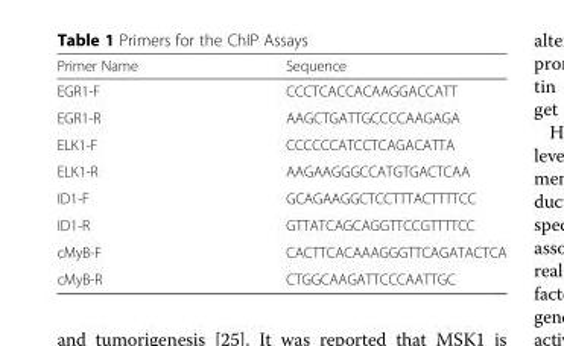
<table><thead><tr><td>Primer Name</td><td>Sequence</td></tr></thead><tbody><tr><td>EGR1-F</td><td>CCCTCACCACAAGGACCATT</td></tr><tr><td>EGR1-R</td><td>AAGCTGATTGCCCCAAGAGA</td></tr><tr><td>ELK1-F</td><td>CCCCCCATCCTCAGACATTA</td></tr><tr><td>ELK1-R</td><td>AAGAAGGGCCATGTGACTCAA</td></tr><tr><td>ID1-F</td><td>GCAGAAGGCTCCTTTACTTTTCC</td></tr><tr><td>ID1-R</td><td>GTTATCAGCAGGTTCCGTTTTCC</td></tr><tr><td>cMyB-F</td><td>CACTTCACAAAGGGTTCAGATACTCA</td></tr><tr><td>cMyB-R</td><td>CTGGCAAGATTCCCAATTGC</td></tr></tbody></table>